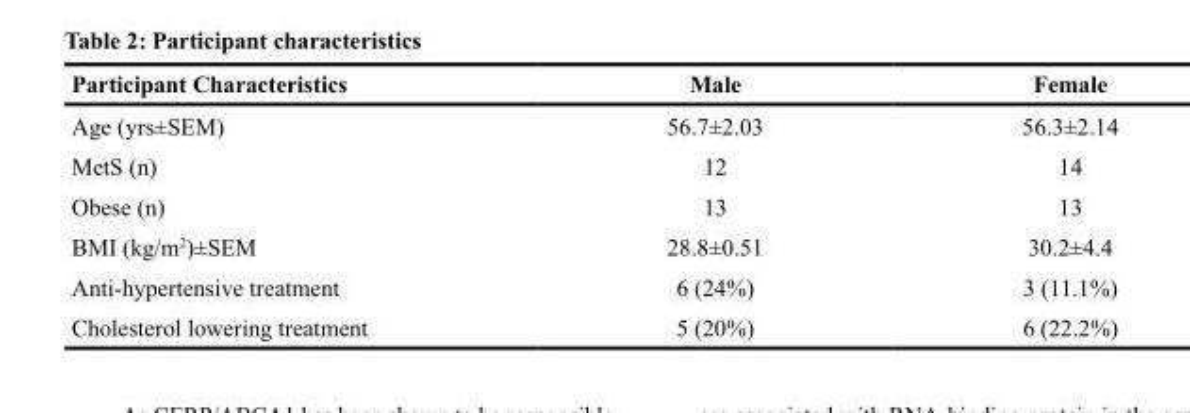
<table><thead><tr><td>Participant Characteristics</td><td>Male</td><td>Female</td></tr></thead><tbody><tr><td>Age (yrs±SEM)</td><td>56.7±2.03</td><td>56.3±2.14</td></tr><tr><td>MetS (n)</td><td>12</td><td>14</td></tr><tr><td>Obese (n)</td><td>13</td><td>13</td></tr><tr><td>BMI (kg/m<sup>2</sup>)±SEM</td><td>28.8±0.51</td><td>30.2±4.4</td></tr><tr><td>Anti-hypertensive treatment</td><td>6 (24%)</td><td>3 (11.1%)</td></tr><tr><td>Cholesterol lowering treatment</td><td>5 (20%)</td><td>6 (22.2%)</td></tr></tbody></table>